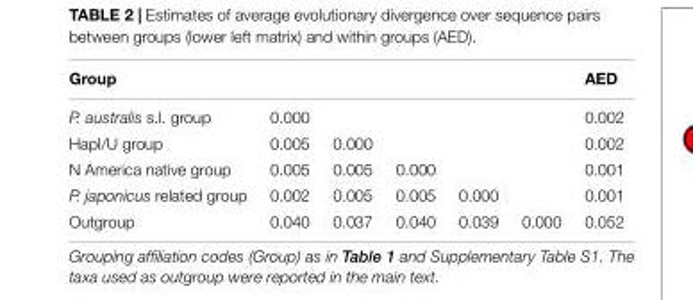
<table><thead><tr><td>Group</td><td></td><td></td><td></td><td></td><td></td><td>AED</td></tr></thead><tbody><tr><td>P. australis s.l. group</td><td>0.000</td><td></td><td></td><td></td><td></td><td>0.002</td></tr><tr><td>HapI/U group</td><td>0.005</td><td>0.000</td><td></td><td></td><td></td><td>0.002</td></tr><tr><td>N America native group</td><td>0.005</td><td>0.005</td><td>0.000</td><td></td><td></td><td>0.001</td></tr><tr><td>P. japonicus related group</td><td>0.002</td><td>0.005</td><td>0.005</td><td>0.000</td><td></td><td>0.001</td></tr><tr><td>Outgroup</td><td>0.040</td><td>0.037</td><td>0.040</td><td>0.039</td><td>0.000</td><td>0.052</td></tr></tbody></table>